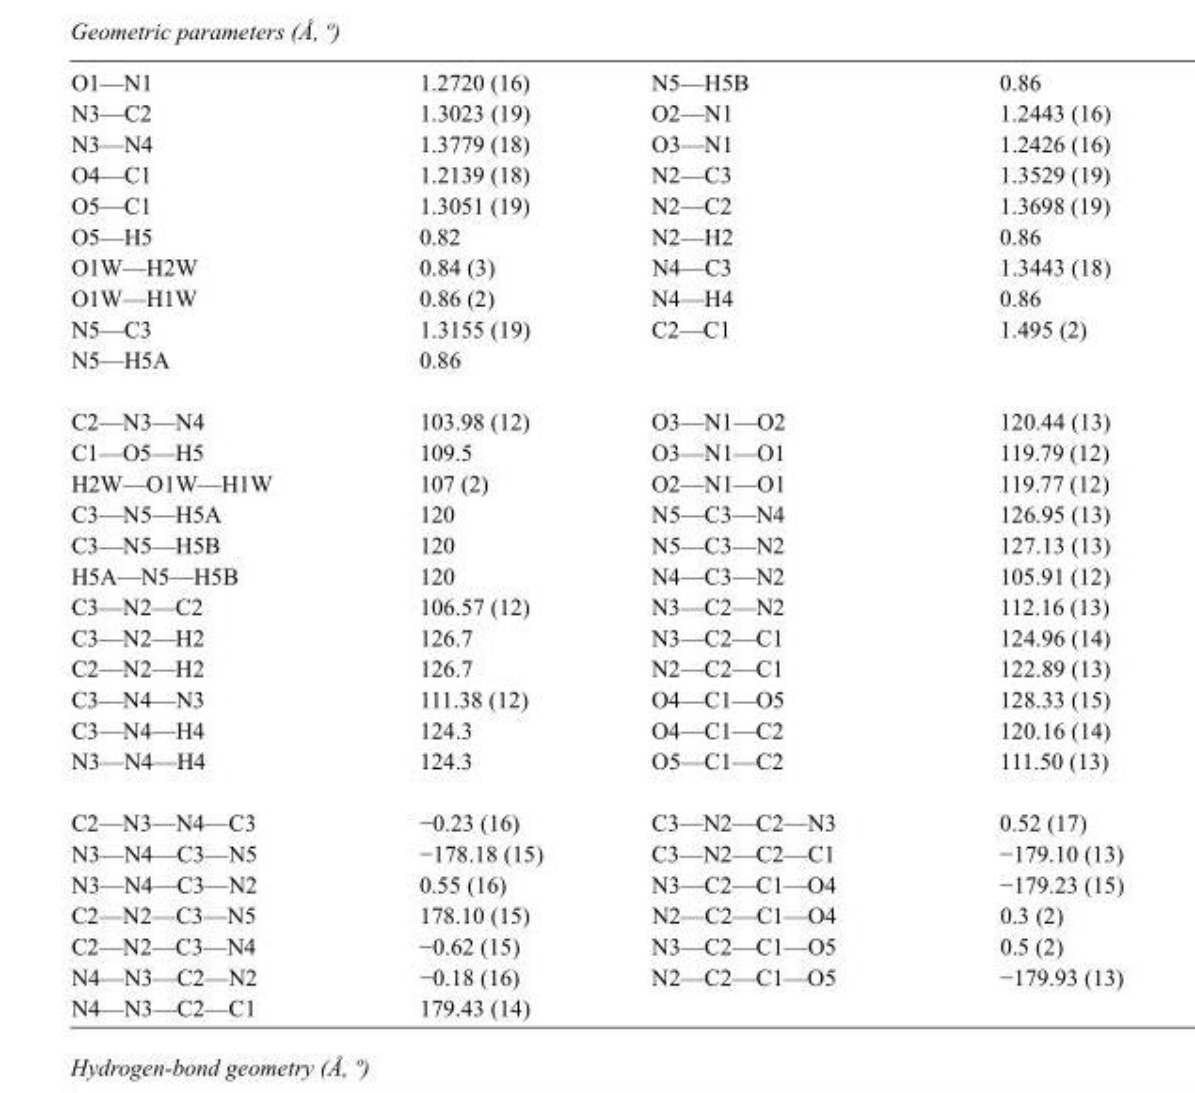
<table><tbody><tr><td>O1—N1</td><td>1.2720 (16)</td><td>N5—H5B</td><td>0.86</td></tr><tr><td>N3—C2</td><td>1.3023 (19)</td><td>O2—N1</td><td>1.2443 (16)</td></tr><tr><td>N3—N4</td><td>1.3779 (18)</td><td>O3—N1</td><td>1.2426 (16)</td></tr><tr><td>O4—C1</td><td>1.2139 (18)</td><td>N2—C3</td><td>1.3529 (19)</td></tr><tr><td>O5—C1</td><td>1.3051 (19)</td><td>N2—C2</td><td>1.3698 (19)</td></tr><tr><td>O5—H5</td><td>0.82</td><td>N2—H2</td><td>0.86</td></tr><tr><td>O1W—H2W</td><td>0.84 (3)</td><td>N4—C3</td><td>1.3443 (18)</td></tr><tr><td>O1W—H1W</td><td>0.86 (2)</td><td>N4—H4</td><td>0.86</td></tr><tr><td>N5—C3</td><td>1.3155 (19)</td><td>C2—C1</td><td>1.495 (2)</td></tr><tr><td>N5—H5A</td><td>0.86</td><td></td><td></td></tr><tr><td>C2—N3—N4</td><td>103.98 (12)</td><td>O3—N1—O2</td><td>120.44 (13)</td></tr><tr><td>C1—O5—H5</td><td>109.5</td><td>O3—N1—O1</td><td>119.79 (12)</td></tr><tr><td>H2W—O1W—H1W</td><td>107 (2)</td><td>O2—N1—O1</td><td>119.77 (12)</td></tr><tr><td>C3—N5—H5A</td><td>120</td><td>N5—C3—N4</td><td>126.95 (13)</td></tr><tr><td>C3—N5—H5B</td><td>120</td><td>N5—C3—N2</td><td>127.13 (13)</td></tr><tr><td>H5A—N5—H5B</td><td>120</td><td>N4—C3—N2</td><td>105.91 (12)</td></tr><tr><td>C3—N2—C2</td><td>106.57 (12)</td><td>N3—C2—N2</td><td>112.16 (13)</td></tr><tr><td>C3—N2—H2</td><td>126.7</td><td>N3—C2—C1</td><td>124.96 (14)</td></tr><tr><td>C2—N2—H2</td><td>126.7</td><td>N2—C2—C1</td><td>122.89 (13)</td></tr><tr><td>C3—N4—N3</td><td>111.38 (12)</td><td>O4—C1—O5</td><td>128.33 (15)</td></tr><tr><td>C3—N4—H4</td><td>124.3</td><td>O4—C1—C2</td><td>120.16 (14)</td></tr><tr><td>N3—N4—H4</td><td>124.3</td><td>O5—C1—C2</td><td>111.50 (13)</td></tr><tr><td>C2—N3—N4—C3</td><td>−0.23 (16)</td><td>C3—N2—C2—N3</td><td>0.52 (17)</td></tr><tr><td>N3—N4—C3—N5</td><td>−178.18 (15)</td><td>C3—N2—C2—C1</td><td>−179.10 (13)</td></tr><tr><td>N3—N4—C3—N2</td><td>0.55 (16)</td><td>N3—C2—C1—O4</td><td>−179.23 (15)</td></tr><tr><td>C2—N2—C3—N5</td><td>178.10 (15)</td><td>N2—C2—C1—O4</td><td>0.3 (2)</td></tr><tr><td>C2—N2—C3—N4</td><td>−0.62 (15)</td><td>N3—C2—C1—O5</td><td>0.5 (2)</td></tr><tr><td>N4—N3—C2—N2</td><td>−0.18 (16)</td><td>N2—C2—C1—O5</td><td>−179.93 (13)</td></tr><tr><td>N4—N3—C2—C1</td><td>179.43 (14)</td><td></td><td></td></tr></tbody></table>